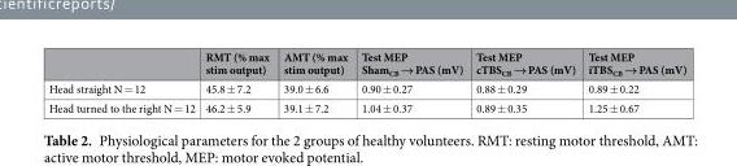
<table><thead><tr><td></td><td>RMT (% max stim output)</td><td>AMT (% max stim output)</td><td>Test MEP Sham<sub>CB</sub> → PAS (mV)</td><td>Test MEP cTBS<sub>CB</sub> → PAS (mV)</td><td>Test MEP iTBS<sub>CB</sub> → PAS (mV)</td></tr></thead><tbody><tr><td>Head straight N = 12</td><td>45.8 ± 7.2</td><td>39.0 ± 6.6</td><td>0.90 ± 0.27</td><td>0.88 ± 0.29</td><td>0.89 ± 0.22</td></tr><tr><td>Head turned to the right N = 12</td><td>46.2 ± 5.9</td><td>39.1 ± 7.2</td><td>1.04 ± 0.37</td><td>0.89 ± 0.35</td><td>1.25 ± 0.67</td></tr></tbody></table>